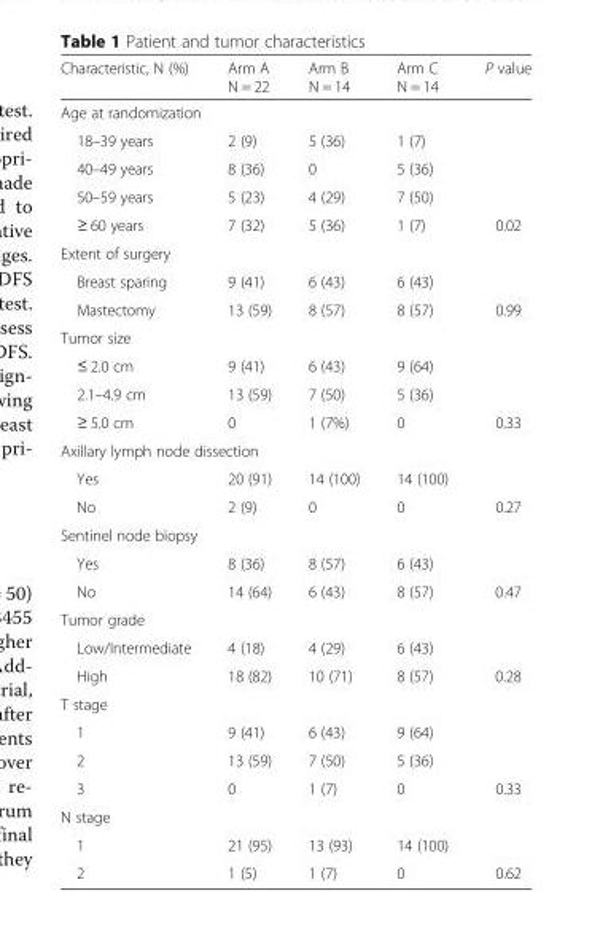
<table><thead><tr><td>Characteristic, N (%)</td><td>Arm A N = 22</td><td>Arm B N = 14</td><td>Arm C N = 14</td><td>P value</td></tr></thead><tbody><tr><td colspan="5">Age at randomization</td></tr><tr><td>18–39 years</td><td>2 (9)</td><td>5 (36)</td><td>1 (7)</td><td></td></tr><tr><td>40–49 years</td><td>8 (36)</td><td>0</td><td>5 (36)</td><td></td></tr><tr><td>50–59 years</td><td>5 (23)</td><td>4 (29)</td><td>7 (50)</td><td></td></tr><tr><td>≥ 60 years</td><td>7 (32)</td><td>5 (36)</td><td>1 (7)</td><td>0.02</td></tr><tr><td colspan="5">Extent of surgery</td></tr><tr><td>Breast sparing</td><td>9 (41)</td><td>6 (43)</td><td>6 (43)</td><td></td></tr><tr><td>Mastectomy</td><td>13 (59)</td><td>8 (57)</td><td>8 (57)</td><td>0.99</td></tr><tr><td colspan="5">Tumor size</td></tr><tr><td>≤ 2.0 cm</td><td>9 (41)</td><td>6 (43)</td><td>9 (64)</td><td></td></tr><tr><td>2.1–4.9 cm</td><td>13 (59)</td><td>7 (50)</td><td>5 (36)</td><td></td></tr><tr><td>≥ 5.0 cm</td><td>0</td><td>1 (7%)</td><td>0</td><td>0.33</td></tr><tr><td colspan="5">Axillary lymph node dissection</td></tr><tr><td>Yes</td><td>20 (91)</td><td>14 (100)</td><td>14 (100)</td><td></td></tr><tr><td>No</td><td>2 (9)</td><td>0</td><td>0</td><td>0.27</td></tr><tr><td colspan="5">Sentinel node biopsy</td></tr><tr><td>Yes</td><td>8 (36)</td><td>8 (57)</td><td>6 (43)</td><td></td></tr><tr><td>No</td><td>14 (64)</td><td>6 (43)</td><td>8 (57)</td><td>0.47</td></tr><tr><td colspan="5">Tumor grade</td></tr><tr><td>Low/Intermediate</td><td>4 (18)</td><td>4 (29)</td><td>6 (43)</td><td></td></tr><tr><td>High</td><td>18 (82)</td><td>10 (71)</td><td>8 (57)</td><td>0.28</td></tr><tr><td colspan="5">T stage</td></tr><tr><td>1</td><td>9 (41)</td><td>6 (43)</td><td>9 (64)</td><td></td></tr><tr><td>2</td><td>13 (59)</td><td>7 (50)</td><td>5 (36)</td><td></td></tr><tr><td>3</td><td>0</td><td>1 (7)</td><td>0</td><td>0.33</td></tr><tr><td colspan="5">N stage</td></tr><tr><td>1</td><td>21 (95)</td><td>13 (93)</td><td>14 (100)</td><td></td></tr><tr><td>2</td><td>1 (5)</td><td>1 (7)</td><td>0</td><td>0.62</td></tr></tbody></table>